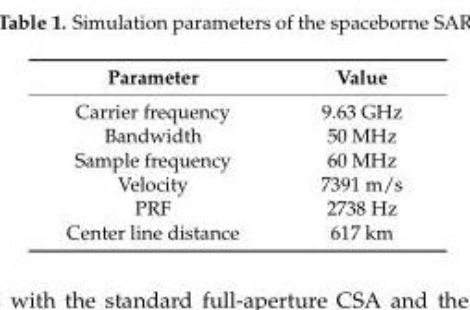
<table><thead><tr><td>Parameter</td><td>Value</td></tr></thead><tbody><tr><td>Carrier frequency</td><td>9.63 GHz</td></tr><tr><td>Bandwidth</td><td>50 MHz</td></tr><tr><td>Sample frequency</td><td>60 MHz</td></tr><tr><td>Velocity</td><td>7391 m/s</td></tr><tr><td>PRF</td><td>2738 Hz</td></tr><tr><td>Center line distance</td><td>617 km</td></tr></tbody></table>